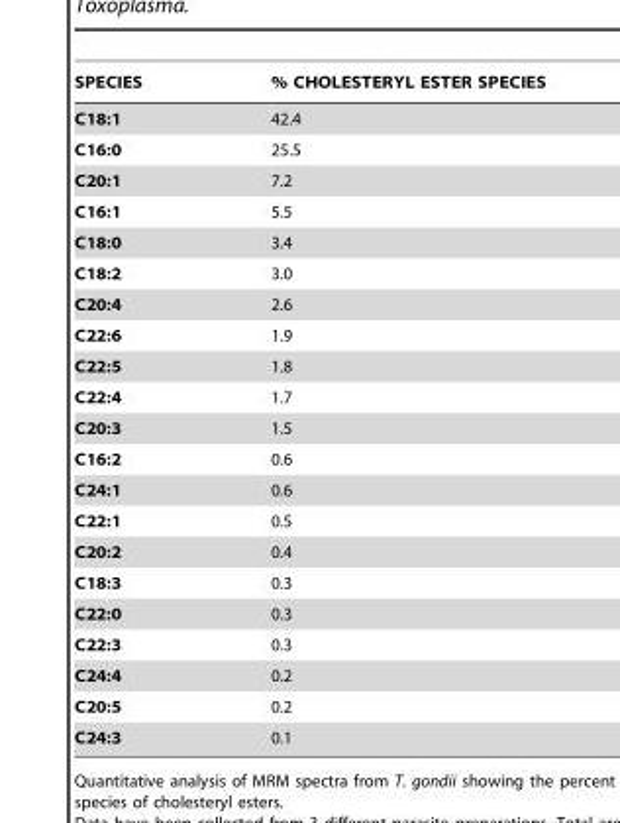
<table><thead><tr><td>SPECIES</td><td>% CHOLESTERYL ESTER SPECIES</td></tr></thead><tbody><tr><td>C18:1</td><td>42.4</td></tr><tr><td>C16:0</td><td>25.5</td></tr><tr><td>C20:1</td><td>7.2</td></tr><tr><td>C16:1</td><td>5.5</td></tr><tr><td>C18:0</td><td>3.4</td></tr><tr><td>C18:2</td><td>3.0</td></tr><tr><td>C20:4</td><td>2.6</td></tr><tr><td>C22:6</td><td>1.9</td></tr><tr><td>C22:5</td><td>1.8</td></tr><tr><td>C22:4</td><td>1.7</td></tr><tr><td>C20:3</td><td>1.5</td></tr><tr><td>C16:2</td><td>0.6</td></tr><tr><td>C24:1</td><td>0.6</td></tr><tr><td>C22:1</td><td>0.5</td></tr><tr><td>C20:2</td><td>0.4</td></tr><tr><td>C18:3</td><td>0.3</td></tr><tr><td>C22:0</td><td>0.3</td></tr><tr><td>C22:3</td><td>0.3</td></tr><tr><td>C24:4</td><td>0.2</td></tr><tr><td>C20:5</td><td>0.2</td></tr><tr><td>C24:3</td><td>0.1</td></tr></tbody></table>